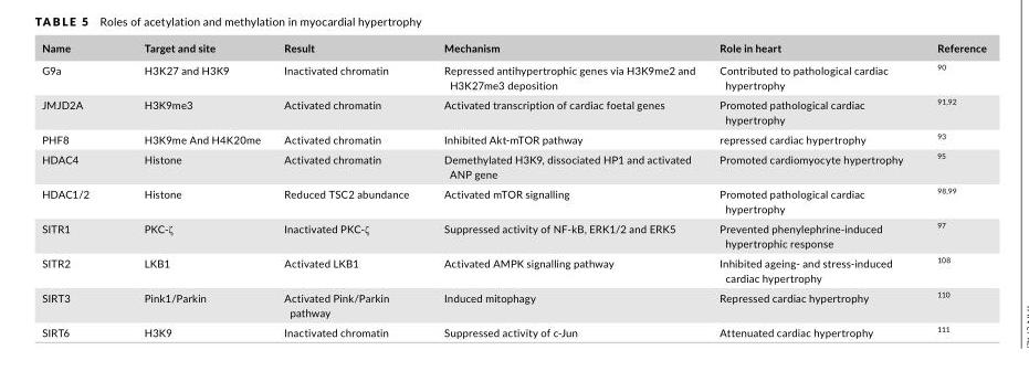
<table><thead><tr><td>Name</td><td>Target and site</td><td>Result</td><td>Mechanism</td><td>Role in heart</td><td>Reference</td></tr></thead><tbody><tr><td>G9a</td><td>H3K27 and H3K9</td><td>Inactivated chromatin</td><td>Repressed antihypertrophic genes via H3K9me2 and H3K27me3 deposition</td><td>Contributed to pathological cardiac hypertrophy</td><td>90</td></tr><tr><td>JMJD2A</td><td>H3K9me3</td><td>Activated chromatin</td><td>Activated transcription of cardiac foetal genes</td><td>Promoted pathological cardiac hypertrophy</td><td>91,92</td></tr><tr><td>PHF8</td><td>H3K9me And H4K20me</td><td>Activated chromatin</td><td>Inhibited Akt‐mTOR pathway</td><td>repressed cardiac hypertrophy</td><td>93</td></tr><tr><td>HDAC4</td><td>Histone</td><td>Activated chromatin</td><td>Demethylated H3K9, dissociated HP1 and activated ANP gene</td><td>Promoted cardiomyocyte hypertrophy</td><td>95</td></tr><tr><td>HDAC1/2</td><td>Histone</td><td>Reduced TSC2 abundance</td><td>Activated mTOR signalling</td><td>Promoted pathological cardiac hypertrophy</td><td>98,99</td></tr><tr><td>SITR1</td><td>PKC‐ζ</td><td>Inactivated PKC‐ζ</td><td>Suppressed activity of NF‐kB, ERK1/2 and ERK5</td><td>Prevented phenylephrine‐induced hypertrophic response</td><td>97</td></tr><tr><td>SITR2</td><td>LKB1</td><td>Activated LKB1</td><td>Activated AMPK signalling pathway</td><td>Inhibited ageing‐ and stress‐induced cardiac hypertrophy</td><td>108</td></tr><tr><td>SIRT3</td><td>Pink1/Parkin</td><td>Activated Pink/Parkin pathway</td><td>Induced mitophagy</td><td>Repressed cardiac hypertrophy</td><td>110</td></tr><tr><td>SIRT6</td><td>H3K9</td><td>Inactivated chromatin</td><td>Suppressed activity of c‐Jun</td><td>Attenuated cardiac hypertrophy</td><td>111</td></tr></tbody></table>